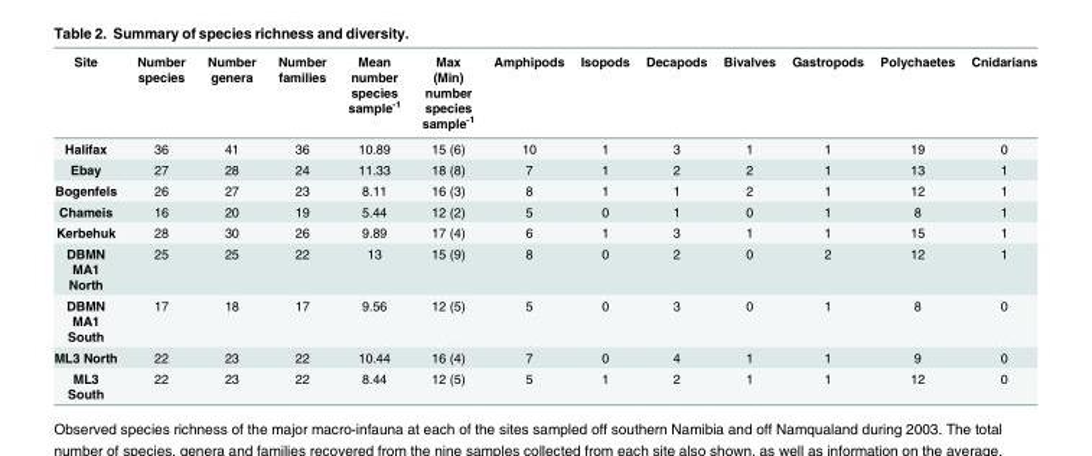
<table><thead><tr><td>Site</td><td>Number species</td><td>Number genera</td><td>Number families</td><td>Mean number species sample<sup>-1</sup></td><td>Max (Min) number species sample<sup>-1</sup></td><td>Amphipods</td><td>Isopods</td><td>Decapods</td><td>Bivalves</td><td>Gastropods</td><td>Polychaetes</td><td>Cnidarians</td></tr></thead><tbody><tr><td>Halifax</td><td>36</td><td>41</td><td>36</td><td>10.89</td><td>15 (6)</td><td>10</td><td>1</td><td>3</td><td>1</td><td>1</td><td>19</td><td>0</td></tr><tr><td>Ebay</td><td>27</td><td>28</td><td>24</td><td>11.33</td><td>18 (8)</td><td>7</td><td>1</td><td>2</td><td>2</td><td>1</td><td>13</td><td>1</td></tr><tr><td>Bogenfels</td><td>26</td><td>27</td><td>23</td><td>8.11</td><td>16 (3)</td><td>8</td><td>1</td><td>1</td><td>2</td><td>1</td><td>12</td><td>1</td></tr><tr><td>Chameis</td><td>16</td><td>20</td><td>19</td><td>5.44</td><td>12 (2)</td><td>5</td><td>0</td><td>1</td><td>0</td><td>1</td><td>8</td><td>1</td></tr><tr><td>Kerbehuk</td><td>28</td><td>30</td><td>26</td><td>9.89</td><td>17 (4)</td><td>6</td><td>1</td><td>3</td><td>1</td><td>1</td><td>15</td><td>1</td></tr><tr><td>DBMN MA1 North</td><td>25</td><td>25</td><td>22</td><td>13</td><td>15 (9)</td><td>8</td><td>0</td><td>2</td><td>0</td><td>2</td><td>12</td><td>1</td></tr><tr><td>DBMN MA1 South</td><td>17</td><td>18</td><td>17</td><td>9.56</td><td>12 (5)</td><td>5</td><td>0</td><td>3</td><td>0</td><td>1</td><td>8</td><td>0</td></tr><tr><td>ML3 North</td><td>22</td><td>23</td><td>22</td><td>10.44</td><td>16 (4)</td><td>7</td><td>0</td><td>4</td><td>1</td><td>1</td><td>9</td><td>0</td></tr><tr><td>ML3 South</td><td>22</td><td>23</td><td>22</td><td>8.44</td><td>12 (5)</td><td>5</td><td>1</td><td>2</td><td>1</td><td>1</td><td>12</td><td>0</td></tr></tbody></table>